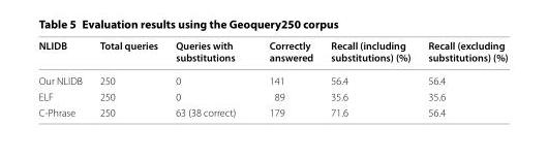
<table><thead><tr><td>NLIDB</td><td>Total queries</td><td>Queries with substitutions</td><td>Correctly answered</td><td>Recall (including substitutions) (%)</td><td>Recall (excluding substitutions) (%)</td></tr></thead><tbody><tr><td>Our NLIDB</td><td>250</td><td>0</td><td>141</td><td>56.4</td><td>56.4</td></tr><tr><td>ELF</td><td>250</td><td>0</td><td>89</td><td>35.6</td><td>35.6</td></tr><tr><td>C-Phrase</td><td>250</td><td>63 (38 correct)</td><td>179</td><td>71.6</td><td>56.4</td></tr></tbody></table>